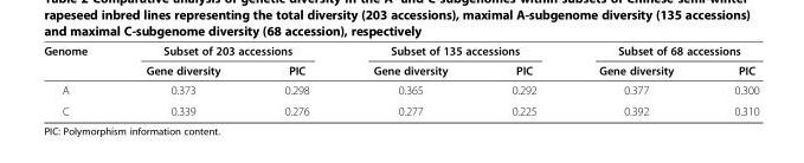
<table><thead><tr><td rowspan="2">Genome</td><td colspan="2">Subset of 203 accessions</td><td colspan="2">Subset of 135 accessions</td><td colspan="2">Subset of 68 accessions</td></tr><tr><td>Gene diversity</td><td>PIC</td><td>Gene diversity</td><td>PIC</td><td>Gene diversity</td><td>PIC</td></tr></thead><tbody><tr><td>A</td><td>0.373</td><td>0.298</td><td>0.365</td><td>0.292</td><td>0.377</td><td>0.300</td></tr><tr><td>C</td><td>0.339</td><td>0.276</td><td>0.277</td><td>0.225</td><td>0.392</td><td>0.310</td></tr></tbody></table>